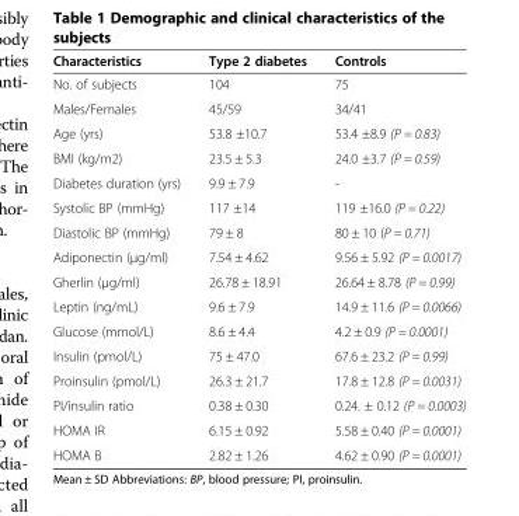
<table><thead><tr><td>Characteristics</td><td>Type 2 diabetes</td><td>Controls</td></tr></thead><tbody><tr><td>No. of subjects</td><td>104</td><td>75</td></tr><tr><td>Males/Females</td><td>45/59</td><td>34/41</td></tr><tr><td>Age (yrs)</td><td>53.8 ±10.7</td><td>53.4 ±8.9 (P = 0.83)</td></tr><tr><td>BMI (kg/m2)</td><td>23.5 ± 5.3</td><td>24.0 ±3.7 (P = 0.59)</td></tr><tr><td>Diabetes duration (yrs)</td><td>9.9 ± 7.9</td><td>-</td></tr><tr><td>Systolic BP (mmHg)</td><td>117 ±14</td><td>119 ±16.0 (P = 0.22)</td></tr><tr><td>Diastolic BP (mmHg)</td><td>79 ± 8</td><td>80 ± 10 (P = 0.71)</td></tr><tr><td>Adiponectin (μg/ml)</td><td>7.54 ± 4.62</td><td>9.56 ± 5.92 (P = 0.0017)</td></tr><tr><td>Gherlin (μg/ml)</td><td>26.78 ± 18.91</td><td>26.64 ± 8.78 (P = 0.99)</td></tr><tr><td>Leptin (ng/mL)</td><td>9.6 ± 7.9</td><td>14.9 ± 11.6 (P = 0.0066)</td></tr><tr><td>Glucose (mmol/L)</td><td>8.6 ± 4.4</td><td>4.2 ± 0.9 (P = 0.0001)</td></tr><tr><td>Insulin (pmol/L)</td><td>75 ± 47.0</td><td>67.6 ± 23.2 (P = 0.99)</td></tr><tr><td>Proinsulin (pmol/L)</td><td>26.3 ± 21.7</td><td>17.8 ± 12.8 (P = 0.0031)</td></tr><tr><td>PI/insulin ratio</td><td>0.38 ± 0.30</td><td>0.24. ± 0.12 (P = 0.0003)</td></tr><tr><td>HOMA IR</td><td>6.15 ± 0.92</td><td>5.58 ± 0.40 (P = 0.0001)</td></tr><tr><td>HOMA B</td><td>2.82 ± 1.26</td><td>4.62 ± 0.90 (P = 0.0001)</td></tr></tbody></table>